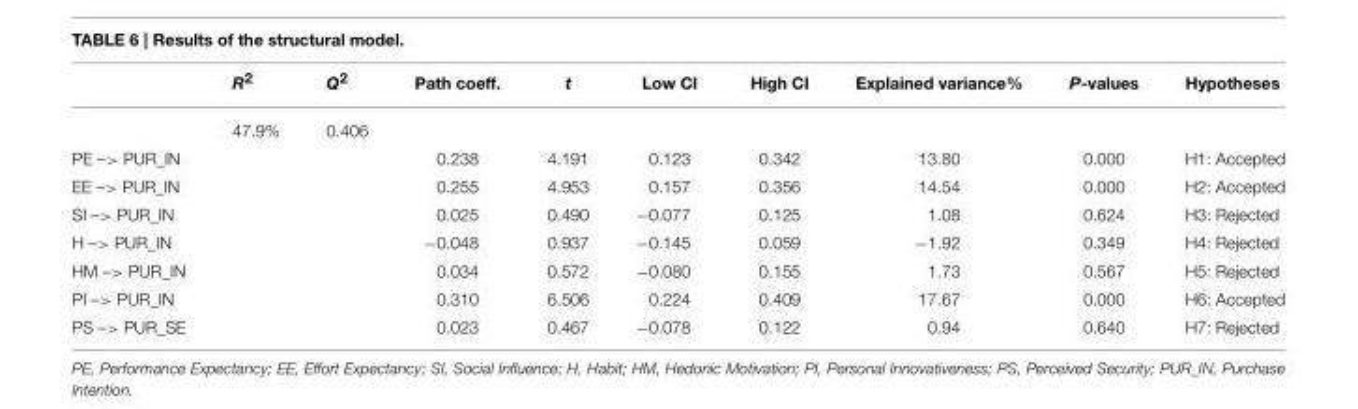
<table><thead><tr><td></td><td>R<sup>2</sup></td><td>Q<sup>2</sup></td><td>Path coeff.</td><td>t</td><td>Low CI</td><td>High CI</td><td>Explained variance%</td><td>P-values</td><td>Hypotheses</td></tr></thead><tbody><tr><td></td><td>47.9%</td><td>0.406</td><td></td><td></td><td></td><td></td><td></td><td></td><td></td></tr><tr><td>PE –&gt; PUR_IN</td><td></td><td></td><td>0.238</td><td>4.191</td><td>0.123</td><td>0.342</td><td>13.80</td><td>0.000</td><td>H1: Accepted</td></tr><tr><td>EE –&gt; PUR_IN</td><td></td><td></td><td>0.255</td><td>4.953</td><td>0.157</td><td>0.356</td><td>14.54</td><td>0.000</td><td>H2: Accepted</td></tr><tr><td>SI –&gt; PUR_IN</td><td></td><td></td><td>0.025</td><td>0.490</td><td>−0.077</td><td>0.125</td><td>1.08</td><td>0.624</td><td>H3: Rejected</td></tr><tr><td>H –&gt; PUR_IN</td><td></td><td></td><td>−0.048</td><td>0.937</td><td>−0.145</td><td>0.059</td><td>−1.92</td><td>0.349</td><td>H4: Rejected</td></tr><tr><td>HM –&gt; PUR_IN</td><td></td><td></td><td>0.034</td><td>0.572</td><td>−0.080</td><td>0.155</td><td>1.73</td><td>0.567</td><td>H5: Rejected</td></tr><tr><td>PI –&gt; PUR_IN</td><td></td><td></td><td>0.310</td><td>6.506</td><td>0.224</td><td>0.409</td><td>17.67</td><td>0.000</td><td>H6: Accepted</td></tr><tr><td>PS –&gt; PUR_SE</td><td></td><td></td><td>0.023</td><td>0.467</td><td>−0.078</td><td>0.122</td><td>0.94</td><td>0.640</td><td>H7: Rejected</td></tr></tbody></table>